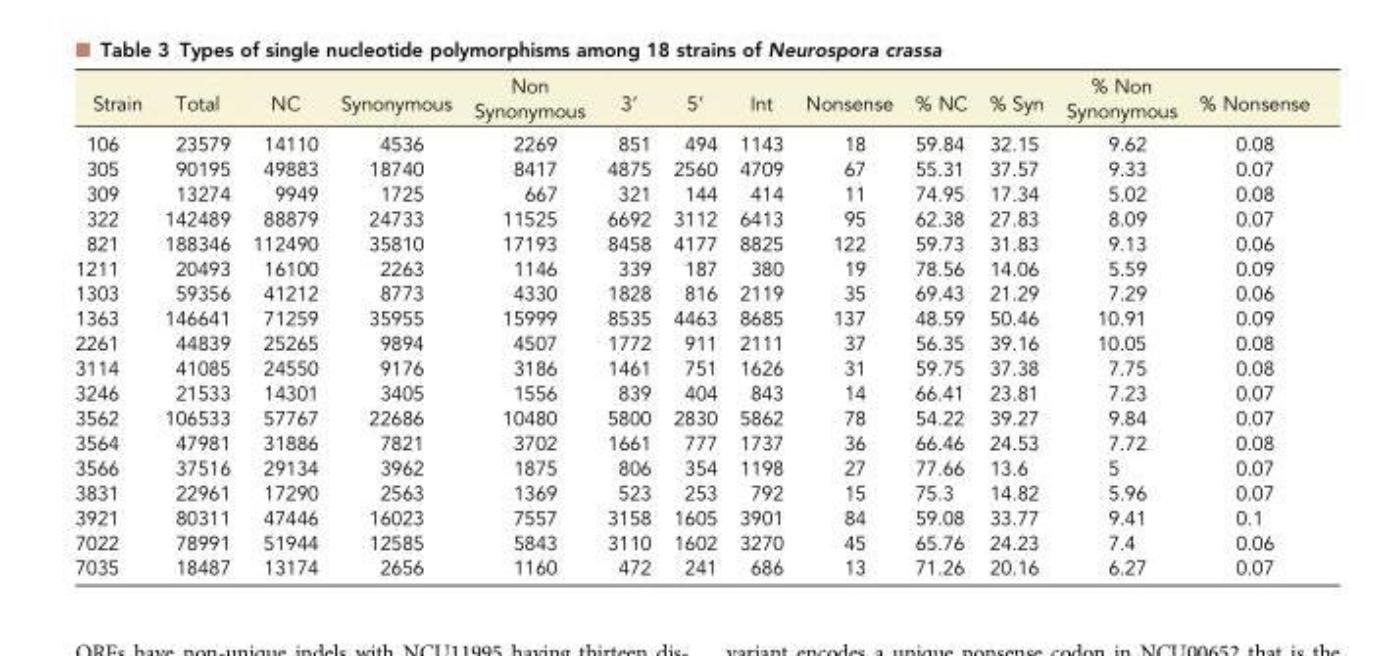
<table><thead><tr><td>Strain</td><td>Total</td><td>NC</td><td>Synonymous</td><td>Non Synonymous</td><td>3′</td><td>5′</td><td>Int</td><td>Nonsense</td><td>% NC</td><td>% Syn</td><td>% Non Synonymous</td><td>% Nonsense</td></tr></thead><tbody><tr><td>106</td><td>23579</td><td>14110</td><td>4536</td><td>2269</td><td>851</td><td>494</td><td>1143</td><td>18</td><td>59.84</td><td>32.15</td><td>9.62</td><td>0.08</td></tr><tr><td>305</td><td>90195</td><td>49883</td><td>18740</td><td>8417</td><td>4875</td><td>2560</td><td>4709</td><td>67</td><td>55.31</td><td>37.57</td><td>9.33</td><td>0.07</td></tr><tr><td>309</td><td>13274</td><td>9949</td><td>1725</td><td>667</td><td>321</td><td>144</td><td>414</td><td>11</td><td>74.95</td><td>17.34</td><td>5.02</td><td>0.08</td></tr><tr><td>322</td><td>142489</td><td>88879</td><td>24733</td><td>11525</td><td>6692</td><td>3112</td><td>6413</td><td>95</td><td>62.38</td><td>27.83</td><td>8.09</td><td>0.07</td></tr><tr><td>821</td><td>188346</td><td>112490</td><td>35810</td><td>17193</td><td>8458</td><td>4177</td><td>8825</td><td>122</td><td>59.73</td><td>31.83</td><td>9.13</td><td>0.06</td></tr><tr><td>1211</td><td>20493</td><td>16100</td><td>2263</td><td>1146</td><td>339</td><td>187</td><td>380</td><td>19</td><td>78.56</td><td>14.06</td><td>5.59</td><td>0.09</td></tr><tr><td>1303</td><td>59356</td><td>41212</td><td>8773</td><td>4330</td><td>1828</td><td>816</td><td>2119</td><td>35</td><td>69.43</td><td>21.29</td><td>7.29</td><td>0.06</td></tr><tr><td>1363</td><td>146641</td><td>71259</td><td>35955</td><td>15999</td><td>8535</td><td>4463</td><td>8685</td><td>137</td><td>48.59</td><td>50.46</td><td>10.91</td><td>0.09</td></tr><tr><td>2261</td><td>44839</td><td>25265</td><td>9894</td><td>4507</td><td>1772</td><td>911</td><td>2111</td><td>37</td><td>56.35</td><td>39.16</td><td>10.05</td><td>0.08</td></tr><tr><td>3114</td><td>41085</td><td>24550</td><td>9176</td><td>3186</td><td>1461</td><td>751</td><td>1626</td><td>31</td><td>59.75</td><td>37.38</td><td>7.75</td><td>0.08</td></tr><tr><td>3246</td><td>21533</td><td>14301</td><td>3405</td><td>1556</td><td>839</td><td>404</td><td>843</td><td>14</td><td>66.41</td><td>23.81</td><td>7.23</td><td>0.07</td></tr><tr><td>3562</td><td>106533</td><td>57767</td><td>22686</td><td>10480</td><td>5800</td><td>2830</td><td>5862</td><td>78</td><td>54.22</td><td>39.27</td><td>9.84</td><td>0.07</td></tr><tr><td>3564</td><td>47981</td><td>31886</td><td>7821</td><td>3702</td><td>1661</td><td>777</td><td>1737</td><td>36</td><td>66.46</td><td>24.53</td><td>7.72</td><td>0.08</td></tr><tr><td>3566</td><td>37516</td><td>29134</td><td>3962</td><td>1875</td><td>806</td><td>354</td><td>1198</td><td>27</td><td>77.66</td><td>13.6</td><td>5</td><td>0.07</td></tr><tr><td>3831</td><td>22961</td><td>17290</td><td>2563</td><td>1369</td><td>523</td><td>253</td><td>792</td><td>15</td><td>75.3</td><td>14.82</td><td>5.96</td><td>0.07</td></tr><tr><td>3921</td><td>80311</td><td>47446</td><td>16023</td><td>7557</td><td>3158</td><td>1605</td><td>3901</td><td>84</td><td>59.08</td><td>33.77</td><td>9.41</td><td>0.1</td></tr><tr><td>7022</td><td>78991</td><td>51944</td><td>12585</td><td>5843</td><td>3110</td><td>1602</td><td>3270</td><td>45</td><td>65.76</td><td>24.23</td><td>7.4</td><td>0.06</td></tr><tr><td>7035</td><td>18487</td><td>13174</td><td>2656</td><td>1160</td><td>472</td><td>241</td><td>686</td><td>13</td><td>71.26</td><td>20.16</td><td>6.27</td><td>0.07</td></tr></tbody></table>